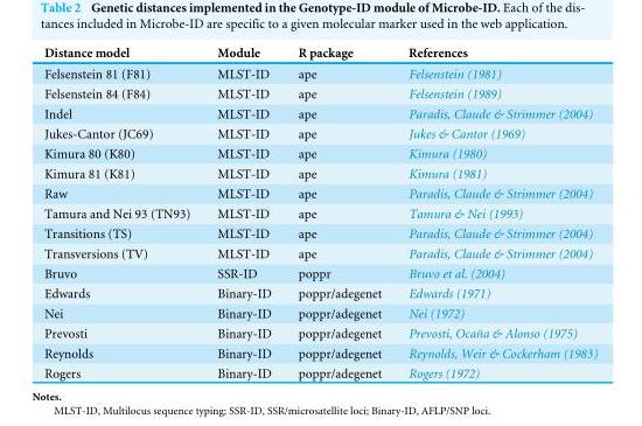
<table><thead><tr><td>Distance model</td><td>Module</td><td>R package</td><td>References</td></tr></thead><tbody><tr><td>Felsenstein 81 (F81)</td><td>MLST-ID</td><td>ape</td><td>Felsenstein (1981)</td></tr><tr><td>Felsenstein 84 (F84)</td><td>MLST-ID</td><td>ape</td><td>Felsenstein (1989)</td></tr><tr><td>Indel</td><td>MLST-ID</td><td>ape</td><td>Paradis, Claude &amp; Strimmer (2004)</td></tr><tr><td>Jukes-Cantor (JC69)</td><td>MLST-ID</td><td>ape</td><td>Jukes &amp; Cantor (1969)</td></tr><tr><td>Kimura 80 (K80)</td><td>MLST-ID</td><td>ape</td><td>Kimura (1980)</td></tr><tr><td>Kimura 81 (K81)</td><td>MLST-ID</td><td>ape</td><td>Kimura (1981)</td></tr><tr><td>Raw</td><td>MLST-ID</td><td>ape</td><td>Paradis, Claude &amp; Strimmer (2004)</td></tr><tr><td>Tamura and Nei 93 (TN93)</td><td>MLST-ID</td><td>ape</td><td>Tamura &amp; Nei (1993)</td></tr><tr><td>Transitions (TS)</td><td>MLST-ID</td><td>ape</td><td>Paradis, Claude &amp; Strimmer (2004)</td></tr><tr><td>Transversions (TV)</td><td>MLST-ID</td><td>ape</td><td>Paradis, Claude &amp; Strimmer (2004)</td></tr><tr><td>Bruvo</td><td>SSR-ID</td><td>poppr</td><td>Bruvo et al. (2004)</td></tr><tr><td>Edwards</td><td>Binary-ID</td><td>poppr/adegenet</td><td>Edwards (1971)</td></tr><tr><td>Nei</td><td>Binary-ID</td><td>poppr/adegenet</td><td>Nei (1972)</td></tr><tr><td>Prevosti</td><td>Binary-ID</td><td>poppr/adegenet</td><td>Prevosti, Ocaña &amp; Alonso (1975)</td></tr><tr><td>Reynolds</td><td>Binary-ID</td><td>poppr/adegenet</td><td>Reynolds, Weir &amp; Cockerham (1983)</td></tr><tr><td>Rogers</td><td>Binary-ID</td><td>poppr/adegenet</td><td>Rogers (1972)</td></tr></tbody></table>